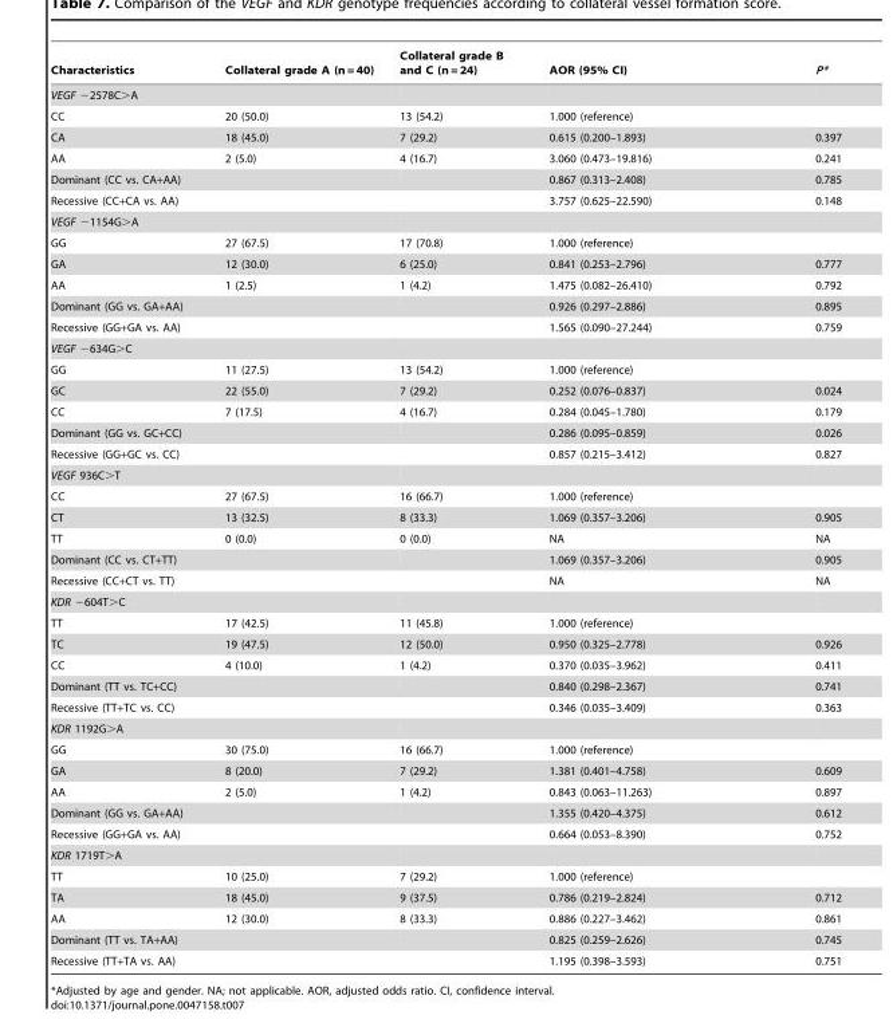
<table><thead><tr><td>Characteristics</td><td>Collateral grade A (n = 40)</td><td>Collateral grade B and C (n = 24)</td><td>AOR (95% CI)</td><td>P*</td></tr></thead><tbody><tr><td colspan="5">VEGF −2578C&gt;A</td></tr><tr><td>CC</td><td>20 (50.0)</td><td>13 (54.2)</td><td>1.000 (reference)</td><td></td></tr><tr><td>CA</td><td>18 (45.0)</td><td>7 (29.2)</td><td>0.615 (0.200–1.893)</td><td>0.397</td></tr><tr><td>AA</td><td>2 (5.0)</td><td>4 (16.7)</td><td>3.060 (0.473–19.816)</td><td>0.241</td></tr><tr><td>Dominant (CC vs. CA+AA)</td><td></td><td></td><td>0.867 (0.313–2.408)</td><td>0.785</td></tr><tr><td>Recessive (CC+CA vs. AA)</td><td></td><td></td><td>3.757 (0.625–22.590)</td><td>0.148</td></tr><tr><td colspan="5">VEGF −1154G&gt;A</td></tr><tr><td>GG</td><td>27 (67.5)</td><td>17 (70.8)</td><td>1.000 (reference)</td><td></td></tr><tr><td>GA</td><td>12 (30.0)</td><td>6 (25.0)</td><td>0.841 (0.253–2.796)</td><td>0.777</td></tr><tr><td>AA</td><td>1 (2.5)</td><td>1 (4.2)</td><td>1.475 (0.082–26.410)</td><td>0.792</td></tr><tr><td>Dominant (GG vs. GA+AA)</td><td></td><td></td><td>0.926 (0.297–2.886)</td><td>0.895</td></tr><tr><td>Recessive (GG+GA vs. AA)</td><td></td><td></td><td>1.565 (0.090–27.244)</td><td>0.759</td></tr><tr><td colspan="5">VEGF −634G&gt;C</td></tr><tr><td>GG</td><td>11 (27.5)</td><td>13 (54.2)</td><td>1.000 (reference)</td><td></td></tr><tr><td>GC</td><td>22 (55.0)</td><td>7 (29.2)</td><td>0.252 (0.076–0.837)</td><td>0.024</td></tr><tr><td>CC</td><td>7 (17.5)</td><td>4 (16.7)</td><td>0.284 (0.045–1.780)</td><td>0.179</td></tr><tr><td>Dominant (GG vs. GC+CC)</td><td></td><td></td><td>0.286 (0.095–0.859)</td><td>0.026</td></tr><tr><td>Recessive (GG+GC vs. CC)</td><td></td><td></td><td>0.857 (0.215–3.412)</td><td>0.827</td></tr><tr><td colspan="5">VEGF 936C&gt;T</td></tr><tr><td>CC</td><td>27 (67.5)</td><td>16 (66.7)</td><td>1.000 (reference)</td><td></td></tr><tr><td>CT</td><td>13 (32.5)</td><td>8 (33.3)</td><td>1.069 (0.357–3.206)</td><td>0.905</td></tr><tr><td>TT</td><td>0 (0.0)</td><td>0 (0.0)</td><td>NA</td><td>NA</td></tr><tr><td>Dominant (CC vs. CT+TT)</td><td></td><td></td><td>1.069 (0.357–3.206)</td><td>0.905</td></tr><tr><td>Recessive (CC+CT vs. TT)</td><td></td><td></td><td>NA</td><td>NA</td></tr><tr><td colspan="5">KDR −604T&gt;C</td></tr><tr><td>TT</td><td>17 (42.5)</td><td>11 (45.8)</td><td>1.000 (reference)</td><td></td></tr><tr><td>TC</td><td>19 (47.5)</td><td>12 (50.0)</td><td>0.950 (0.325–2.778)</td><td>0.926</td></tr><tr><td>CC</td><td>4 (10.0)</td><td>1 (4.2)</td><td>0.370 (0.035–3.962)</td><td>0.411</td></tr><tr><td>Dominant (TT vs. TC+CC)</td><td></td><td></td><td>0.840 (0.298–2.367)</td><td>0.741</td></tr><tr><td>Recessive (TT+TC vs. CC)</td><td></td><td></td><td>0.346 (0.035–3.409)</td><td>0.363</td></tr><tr><td colspan="5">KDR 1192G&gt;A</td></tr><tr><td>GG</td><td>30 (75.0)</td><td>16 (66.7)</td><td>1.000 (reference)</td><td></td></tr><tr><td>GA</td><td>8 (20.0)</td><td>7 (29.2)</td><td>1.381 (0.401–4.758)</td><td>0.609</td></tr><tr><td>AA</td><td>2 (5.0)</td><td>1 (4.2)</td><td>0.843 (0.063–11.263)</td><td>0.897</td></tr><tr><td>Dominant (GG vs. GA+AA)</td><td></td><td></td><td>1.355 (0.420–4.375)</td><td>0.612</td></tr><tr><td>Recessive (GG+GA vs. AA)</td><td></td><td></td><td>0.664 (0.053–8.390)</td><td>0.752</td></tr><tr><td colspan="5">KDR 1719T&gt;A</td></tr><tr><td>TT</td><td>10 (25.0)</td><td>7 (29.2)</td><td>1.000 (reference)</td><td></td></tr><tr><td>TA</td><td>18 (45.0)</td><td>9 (37.5)</td><td>0.786 (0.219–2.824)</td><td>0.712</td></tr><tr><td>AA</td><td>12 (30.0)</td><td>8 (33.3)</td><td>0.886 (0.227–3.462)</td><td>0.861</td></tr><tr><td>Dominant (TT vs. TA+AA)</td><td></td><td></td><td>0.825 (0.259–2.626)</td><td>0.745</td></tr><tr><td>Recessive (TT+TA vs. AA)</td><td></td><td></td><td>1.195 (0.398–3.593)</td><td>0.751</td></tr></tbody></table>